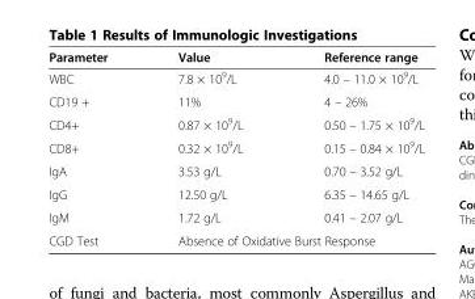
<table><thead><tr><td>Parameter</td><td>Value</td><td>Reference range</td></tr></thead><tbody><tr><td>WBC</td><td>7.8 × 10<sup>9</sup>/L</td><td>4.0 – 11.0 × 10<sup>9</sup>/L</td></tr><tr><td>CD19 +</td><td>11%</td><td>4 – 26%</td></tr><tr><td>CD4+</td><td>0.87 × 10<sup>9</sup>/L</td><td>0.50 – 1.75 × 10<sup>9</sup>/L</td></tr><tr><td>CD8+</td><td>0.32 × 10<sup>9</sup>/L</td><td>0.15 – 0.84 × 10<sup>9</sup>/L</td></tr><tr><td>IgA</td><td>3.53 g/L</td><td>0.70 – 3.52 g/L</td></tr><tr><td>IgG</td><td>12.50 g/L</td><td>6.35 – 14.65 g/L</td></tr><tr><td>IgM</td><td>1.72 g/L</td><td>0.41 – 2.07 g/L</td></tr><tr><td>CGD Test</td><td colspan="2">Absence of Oxidative Burst Response</td></tr></tbody></table>